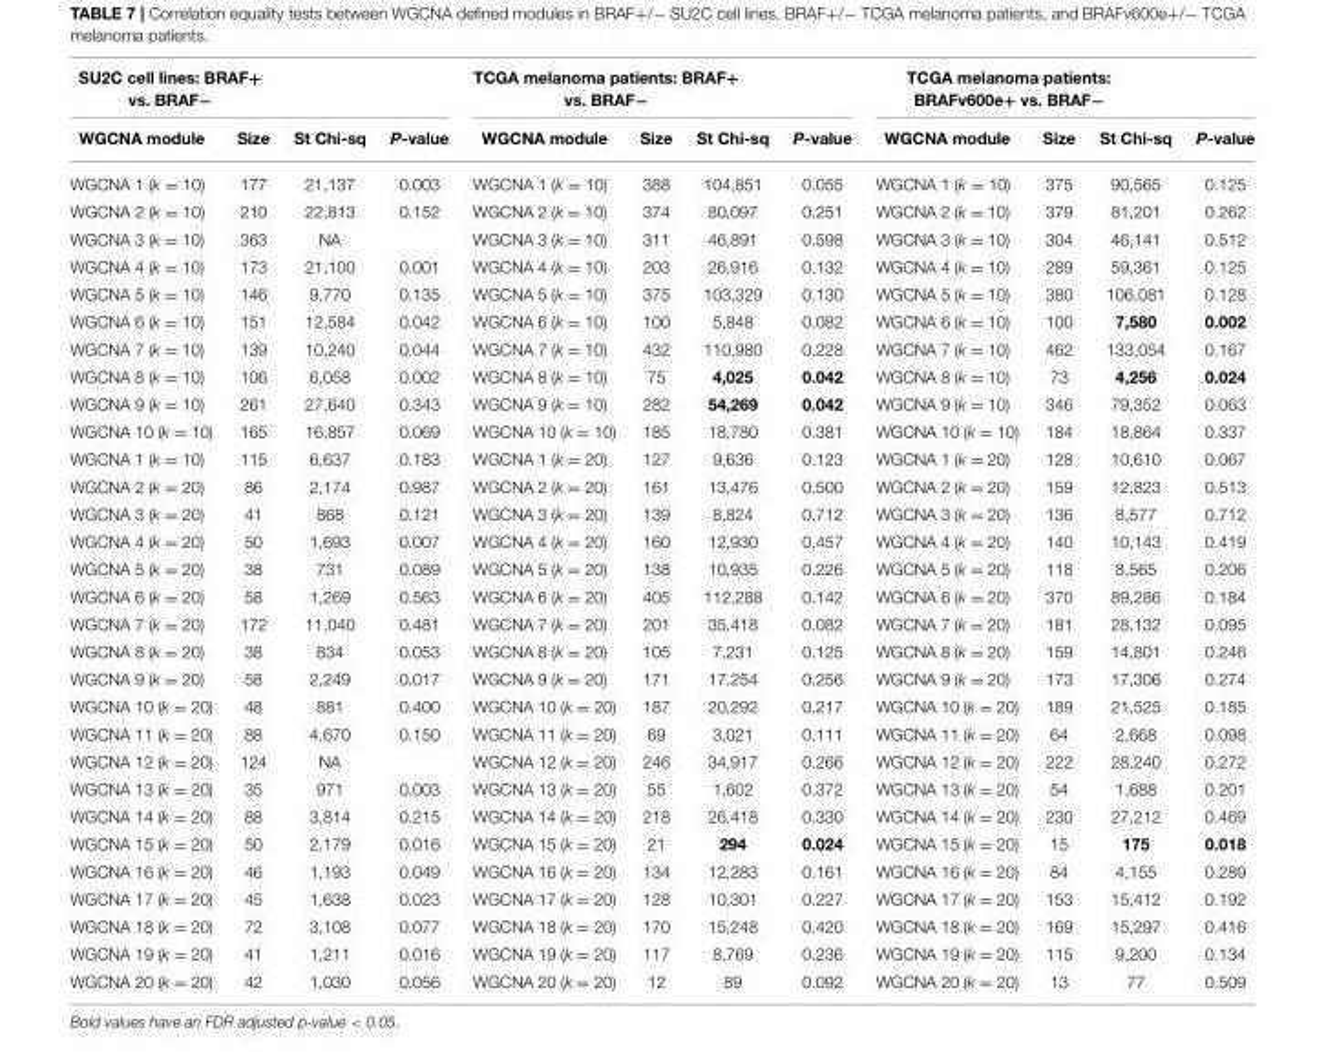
<table><thead><tr><td colspan="4">SU2C cell lines: BRAF+ vs. BRAF−</td><td colspan="4">TCGA melanoma patients: BRAF+ vs. BRAF−</td><td colspan="4">TCGA melanoma patients: BRAFv600e+ vs. BRAF−</td></tr><tr><td>WGCNA module</td><td>Size</td><td>St Chi-sq</td><td>P-value</td><td>WGCNA module</td><td>Size</td><td>St Chi-sq</td><td>P-value</td><td>WGCNA module</td><td>Size</td><td>St Chi-sq</td><td>P-value</td></tr></thead><tbody><tr><td>WGCNA 1 (k = 10)</td><td>177</td><td>21,137</td><td>0.003</td><td>WGCNA 1 (k = 10)</td><td>388</td><td>104,851</td><td>0.055</td><td>WGCNA 1 (k = 10)</td><td>375</td><td>90,565</td><td>0.125</td></tr><tr><td>WGCNA 2 (k = 10)</td><td>210</td><td>22,813</td><td>0.152</td><td>WGCNA 2 (k = 10)</td><td>374</td><td>80,097</td><td>0.251</td><td>WGCNA 2 (k = 10)</td><td>379</td><td>81,201</td><td>0.262</td></tr><tr><td>WGCNA 3 (k = 10)</td><td>363</td><td>NA</td><td></td><td>WGCNA 3 (k = 10)</td><td>311</td><td>46,891</td><td>0.598</td><td>WGCNA 3 (k = 10)</td><td>304</td><td>46,141</td><td>0.512</td></tr><tr><td>WGCNA 4 (k = 10)</td><td>173</td><td>21,100</td><td>0.001</td><td>WGCNA 4 (k = 10)</td><td>203</td><td>26,916</td><td>0.132</td><td>WGCNA 4 (k = 10)</td><td>289</td><td>59,361</td><td>0.125</td></tr><tr><td>WGCNA 5 (k = 10)</td><td>146</td><td>9,770</td><td>0.135</td><td>WGCNA 5 (k = 10)</td><td>375</td><td>103,329</td><td>0.130</td><td>WGCNA 5 (k = 10)</td><td>380</td><td>106,081</td><td>0.128</td></tr><tr><td>WGCNA 6 (k = 10)</td><td>151</td><td>12,584</td><td>0.042</td><td>WGCNA 6 (k = 10)</td><td>100</td><td>5,848</td><td>0.082</td><td>WGCNA 6 (k = 10)</td><td>100</td><td>7,580</td><td>0.002</td></tr><tr><td>WGCNA 7 (k = 10)</td><td>139</td><td>10,240</td><td>0.044</td><td>WGCNA 7 (k = 10)</td><td>432</td><td>110,980</td><td>0.228</td><td>WGCNA 7 (k = 10)</td><td>462</td><td>133,054</td><td>0.167</td></tr><tr><td>WGCNA 8 (k = 10)</td><td>106</td><td>6,058</td><td>0.002</td><td>WGCNA 8 (k = 10)</td><td>75</td><td>4,025</td><td>0.042</td><td>WGCNA 8 (k = 10)</td><td>73</td><td>4,256</td><td>0.024</td></tr><tr><td>WGCNA 9 (k = 10)</td><td>261</td><td>27,640</td><td>0.343</td><td>WGCNA 9 (k = 10)</td><td>282</td><td>54,269</td><td>0.042</td><td>WGCNA 9 (k = 10)</td><td>346</td><td>79,352</td><td>0.063</td></tr><tr><td>WGCNA 10 (k = 10)</td><td>165</td><td>16,857</td><td>0.069</td><td>WGCNA 10 (k = 10)</td><td>185</td><td>18,780</td><td>0.381</td><td>WGCNA 10 (k = 10)</td><td>184</td><td>18,864</td><td>0.337</td></tr><tr><td>WGCNA 1 (k = 10)</td><td>115</td><td>6,637</td><td>0.183</td><td>WGCNA 1 (k = 20)</td><td>127</td><td>9,636</td><td>0.123</td><td>WGCNA 1 (k = 20)</td><td>128</td><td>10,610</td><td>0.067</td></tr><tr><td>WGCNA 2 (k = 20)</td><td>86</td><td>2,174</td><td>0.987</td><td>WGCNA 2 (k = 20)</td><td>161</td><td>13,476</td><td>0.500</td><td>WGCNA 2 (k = 20)</td><td>159</td><td>12,823</td><td>0.513</td></tr><tr><td>WGCNA 3 (k = 20)</td><td>41</td><td>868</td><td>0.121</td><td>WGCNA 3 (k = 20)</td><td>139</td><td>8,824</td><td>0.712</td><td>WGCNA 3 (k = 20)</td><td>136</td><td>8,577</td><td>0.712</td></tr><tr><td>WGCNA 4 (k = 20)</td><td>50</td><td>1,693</td><td>0.007</td><td>WGCNA 4 (k = 20)</td><td>160</td><td>12,930</td><td>0.457</td><td>WGCNA 4 (k = 20)</td><td>140</td><td>10,143</td><td>0.419</td></tr><tr><td>WGCNA 5 (k = 20)</td><td>38</td><td>731</td><td>0.089</td><td>WGCNA 5 (k = 20)</td><td>138</td><td>10,935</td><td>0.226</td><td>WGCNA 5 (k = 20)</td><td>118</td><td>8,565</td><td>0.206</td></tr><tr><td>WGCNA 6 (k = 20)</td><td>58</td><td>1,269</td><td>0.563</td><td>WGCNA 6 (k = 20)</td><td>405</td><td>112,288</td><td>0.142</td><td>WGCNA 6 (k = 20)</td><td>370</td><td>89,286</td><td>0.184</td></tr><tr><td>WGCNA 7 (k = 20)</td><td>172</td><td>11,040</td><td>0.481</td><td>WGCNA 7 (k = 20)</td><td>201</td><td>35,418</td><td>0.082</td><td>WGCNA 7 (k = 20)</td><td>181</td><td>28,132</td><td>0.095</td></tr><tr><td>WGCNA 8 (k = 20)</td><td>38</td><td>834</td><td>0.053</td><td>WGCNA 8 (k = 20)</td><td>105</td><td>7,231</td><td>0.125</td><td>WGCNA 8 (k = 20)</td><td>159</td><td>14,801</td><td>0.246</td></tr><tr><td>WGCNA 9 (k = 20)</td><td>58</td><td>2,249</td><td>0.017</td><td>WGCNA 9 (k = 20)</td><td>171</td><td>17,254</td><td>0.256</td><td>WGCNA 9 (k = 20)</td><td>173</td><td>17,306</td><td>0.274</td></tr><tr><td>WGCNA 10 (k = 20)</td><td>48</td><td>881</td><td>0.400</td><td>WGCNA 10 (k = 20)</td><td>187</td><td>20,292</td><td>0.217</td><td>WGCNA 10 (k = 20)</td><td>189</td><td>21,525</td><td>0.185</td></tr><tr><td>WGCNA 11 (k = 20)</td><td>88</td><td>4,670</td><td>0.150</td><td>WGCNA 11 (k = 20)</td><td>69</td><td>3,021</td><td>0.111</td><td>WGCNA 11 (k = 20)</td><td>64</td><td>2,668</td><td>0.098</td></tr><tr><td>WGCNA 12 (k = 20)</td><td>124</td><td>NA</td><td></td><td>WGCNA 12 (k = 20)</td><td>246</td><td>34,917</td><td>0.266</td><td>WGCNA 12 (k = 20)</td><td>222</td><td>28,240</td><td>0.272</td></tr><tr><td>WGCNA 13 (k = 20)</td><td>35</td><td>971</td><td>0.003</td><td>WGCNA 13 (k = 20)</td><td>55</td><td>1,602</td><td>0.372</td><td>WGCNA 13 (k = 20)</td><td>54</td><td>1,688</td><td>0.201</td></tr><tr><td>WGCNA 14 (k = 20)</td><td>88</td><td>3,814</td><td>0.215</td><td>WGCNA 14 (k = 20)</td><td>218</td><td>26,418</td><td>0.330</td><td>WGCNA 14 (k = 20)</td><td>230</td><td>27,212</td><td>0.469</td></tr><tr><td>WGCNA 15 (k = 20)</td><td>50</td><td>2,179</td><td>0.016</td><td>WGCNA 15 (k = 20)</td><td>21</td><td>294</td><td>0.024</td><td>WGCNA 15 (k = 20)</td><td>15</td><td>175</td><td>0.018</td></tr><tr><td>WGCNA 16 (k = 20)</td><td>46</td><td>1,193</td><td>0.049</td><td>WGCNA 16 (k = 20)</td><td>134</td><td>12,283</td><td>0.161</td><td>WGCNA 16 (k = 20)</td><td>84</td><td>4,155</td><td>0.289</td></tr><tr><td>WGCNA 17 (k = 20)</td><td>45</td><td>1,638</td><td>0.023</td><td>WGCNA 17 (k = 20)</td><td>128</td><td>10,301</td><td>0.227</td><td>WGCNA 17 (k = 20)</td><td>153</td><td>15,412</td><td>0.192</td></tr><tr><td>WGCNA 18 (k = 20)</td><td>72</td><td>3,108</td><td>0.077</td><td>WGCNA 18 (k = 20)</td><td>170</td><td>15,248</td><td>0.420</td><td>WGCNA 18 (k = 20)</td><td>169</td><td>15,297</td><td>0.416</td></tr><tr><td>WGCNA 19 (k = 20)</td><td>41</td><td>1,211</td><td>0.016</td><td>WGCNA 19 (k = 20)</td><td>117</td><td>8,769</td><td>0.236</td><td>WGCNA 19 (k = 20)</td><td>115</td><td>9,200</td><td>0.134</td></tr><tr><td>WGCNA 20 (k = 20)</td><td>42</td><td>1,030</td><td>0.056</td><td>WGCNA 20 (k = 20)</td><td>12</td><td>89</td><td>0.092</td><td>WGCNA 20 (k = 20)</td><td>13</td><td>77</td><td>0.509</td></tr></tbody></table>